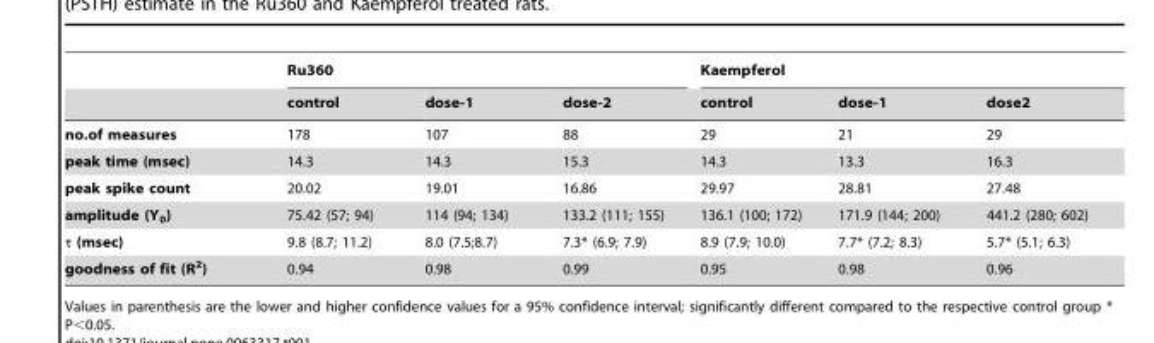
<table><thead><tr><td rowspan="2"></td><td colspan="3">Ru360</td><td colspan="3">Kaempferol</td></tr><tr><td>control</td><td>dose-1</td><td>dose-2</td><td>control</td><td>dose-1</td><td>dose2</td></tr></thead><tbody><tr><td>no.of measures</td><td>178</td><td>107</td><td>88</td><td>29</td><td>21</td><td>29</td></tr><tr><td>peak time (msec)</td><td>14.3</td><td>14.3</td><td>15.3</td><td>14.3</td><td>13.3</td><td>16.3</td></tr><tr><td>peak spike count</td><td>20.02</td><td>19.01</td><td>16.86</td><td>29.97</td><td>28.81</td><td>27.48</td></tr><tr><td>amplitude (Y<sub>0</sub>)</td><td>75.42 (57; 94)</td><td>114 (94; 134)</td><td>133.2 (111; 155)</td><td>136.1 (100; 172)</td><td>171.9 (144; 200)</td><td>441.2 (280; 602)</td></tr><tr><td>τ (msec)</td><td>9.8 (8.7; 11.2)</td><td>8.0 (7.5;8.7)</td><td>7.3* (6.9; 7.9)</td><td>8.9 (7.9; 10.0)</td><td>7.7* (7.2; 8.3)</td><td>5.7* (5.1; 6.3)</td></tr><tr><td>goodness of fit (R<sup>2</sup>)</td><td>0.94</td><td>0.98</td><td>0.99</td><td>0.95</td><td>0.98</td><td>0.96</td></tr></tbody></table>